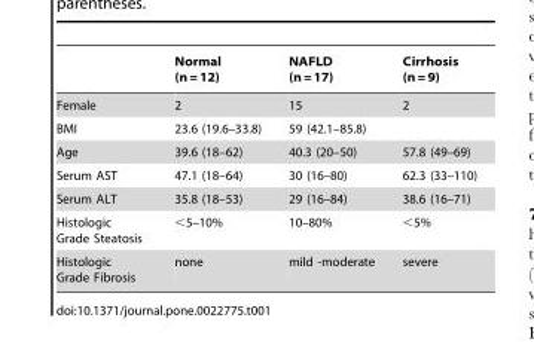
<table><thead><tr><td></td><td>Normal (n = 12)</td><td>NAFLD (n = 17)</td><td>Cirrhosis (n = 9)</td></tr></thead><tbody><tr><td>Female</td><td>2</td><td>15</td><td>2</td></tr><tr><td>BMI</td><td>23.6 (19.6–33.8)</td><td>59 (42.1–85.8)</td><td></td></tr><tr><td>Age</td><td>39.6 (18–62)</td><td>40.3 (20–50)</td><td>57.8 (49–69)</td></tr><tr><td>Serum AST</td><td>47.1 (18–64)</td><td>30 (16–80)</td><td>62.3 (33–110)</td></tr><tr><td>Serum ALT</td><td>35.8 (18–53)</td><td>29 (16–84)</td><td>38.6 (16–71)</td></tr><tr><td>Histologic Grade Steatosis</td><td>&lt;5–10%</td><td>10–80%</td><td>&lt;5%</td></tr><tr><td>Histologic Grade Fibrosis</td><td>none</td><td>mild -moderate</td><td>severe</td></tr></tbody></table>